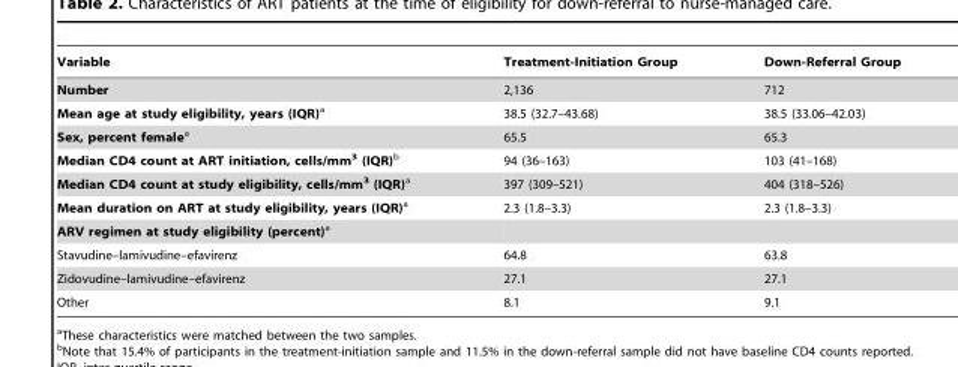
<table><thead><tr><td>Variable</td><td>Treatment-Initiation Group</td><td>Down-Referral Group</td></tr></thead><tbody><tr><td>Number</td><td>2,136</td><td>712</td></tr><tr><td>Mean age at study eligibility, years (IQR)a</td><td>38.5 (32.7–43.68)</td><td>38.5 (33.06–42.03)</td></tr><tr><td>Sex, percent femalea</td><td>65.5</td><td>65.3</td></tr><tr><td>Median CD4 count at ART initiation, cells/mm<sup>3</sup> (IQR)b</td><td>94 (36–163)</td><td>103 (41–168)</td></tr><tr><td>Median CD4 count at study eligibility, cells/mm<sup>3</sup> (IQR)a</td><td>397 (309–521)</td><td>404 (318–526)</td></tr><tr><td>Mean duration on ART at study eligibility, years (IQR)a</td><td>2.3 (1.8–3.3)</td><td>2.3 (1.8–3.3)</td></tr><tr><td colspan="3">ARV regimen at study eligibility (percent)a</td></tr><tr><td>Stavudine–lamivudine–efavirenz</td><td>64.8</td><td>63.8</td></tr><tr><td>Zidovudine–lamivudine–efavirenz</td><td>27.1</td><td>27.1</td></tr><tr><td>Other</td><td>8.1</td><td>9.1</td></tr></tbody></table>